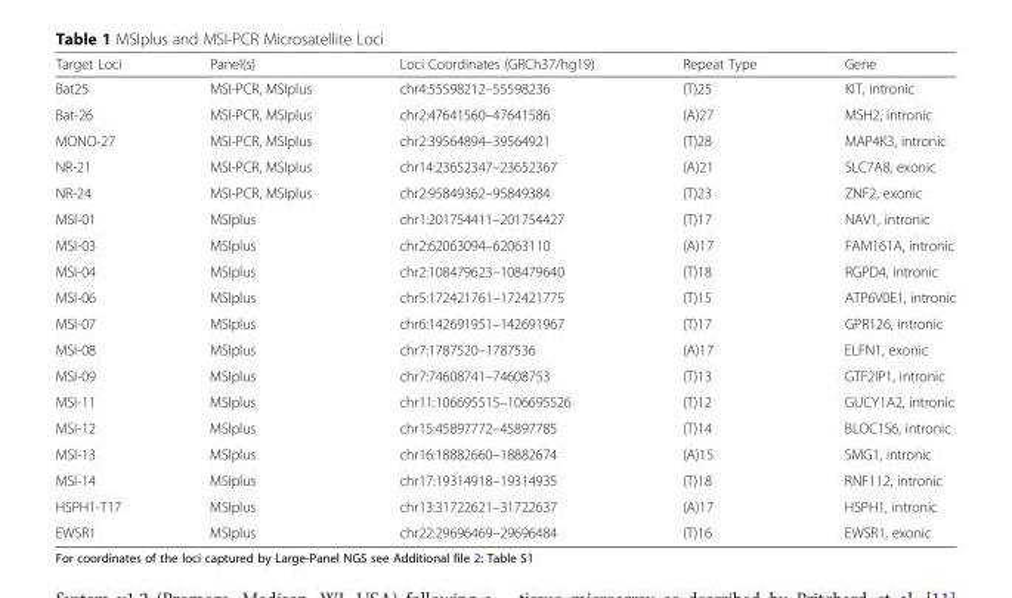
<table><thead><tr><td>Target Loci</td><td>Panel(s)</td><td>Loci Coordinates (GRCh37/hg19)</td><td>Repeat Type</td><td>Gene</td></tr></thead><tbody><tr><td>Bat25</td><td>MSI-PCR, MSIplus</td><td>chr4:55598212–55598236</td><td>(T)25</td><td>KIT, intronic</td></tr><tr><td>Bat-26</td><td>MSI-PCR, MSIplus</td><td>chr2:47641560–47641586</td><td>(A)27</td><td>MSH2, intronic</td></tr><tr><td>MONO-27</td><td>MSI-PCR, MSIplus</td><td>chr2:39564894–39564921</td><td>(T)28</td><td>MAP4K3, intronic</td></tr><tr><td>NR-21</td><td>MSI-PCR, MSIplus</td><td>chr14:23652347–23652367</td><td>(A)21</td><td>SLC7A8, exonic</td></tr><tr><td>NR-24</td><td>MSI-PCR, MSIplus</td><td>chr2:95849362–95849384</td><td>(T)23</td><td>ZNF2, exonic</td></tr><tr><td>MSI-01</td><td>MSIplus</td><td>chr1:201754411–201754427</td><td>(T)17</td><td>NAV1, intronic</td></tr><tr><td>MSI-03</td><td>MSIplus</td><td>chr2:62063094–62063110</td><td>(A)17</td><td>FAM161A, intronic</td></tr><tr><td>MSI-04</td><td>MSIplus</td><td>chr2:108479623–108479640</td><td>(T)18</td><td>RGPD4, intronic</td></tr><tr><td>MSI-06</td><td>MSIplus</td><td>chr5:172421761–172421775</td><td>(T)15</td><td>ATP6V0E1, intronic</td></tr><tr><td>MSI-07</td><td>MSIplus</td><td>chr6:142691951–142691967</td><td>(T)17</td><td>GPR126, intronic</td></tr><tr><td>MSI-08</td><td>MSIplus</td><td>chr7:1787520–1787536</td><td>(A)17</td><td>ELFN1, exonic</td></tr><tr><td>MSI-09</td><td>MSIplus</td><td>chr7:74608741–74608753</td><td>(T)13</td><td>GTF2IP1, intronic</td></tr><tr><td>MSI-11</td><td>MSIplus</td><td>chr11:106695515–106695526</td><td>(T)12</td><td>GUCY1A2, intronic</td></tr><tr><td>MSI-12</td><td>MSIplus</td><td>chr15:45897772–45897785</td><td>(T)14</td><td>BLOC1S6, intronic</td></tr><tr><td>MSI-13</td><td>MSIplus</td><td>chr16:18882660–18882674</td><td>(A)15</td><td>SMG1, intronic</td></tr><tr><td>MSI-14</td><td>MSIplus</td><td>chr17:19314918–19314935</td><td>(T)18</td><td>RNF112, intronic</td></tr><tr><td>HSPH1-T17</td><td>MSIplus</td><td>chr13:31722621–31722637</td><td>(A)17</td><td>HSPH1, intronic</td></tr><tr><td>EWSR1</td><td>MSIplus</td><td>chr22:29696469–29696484</td><td>(T)16</td><td>EWSR1, exonic</td></tr></tbody></table>